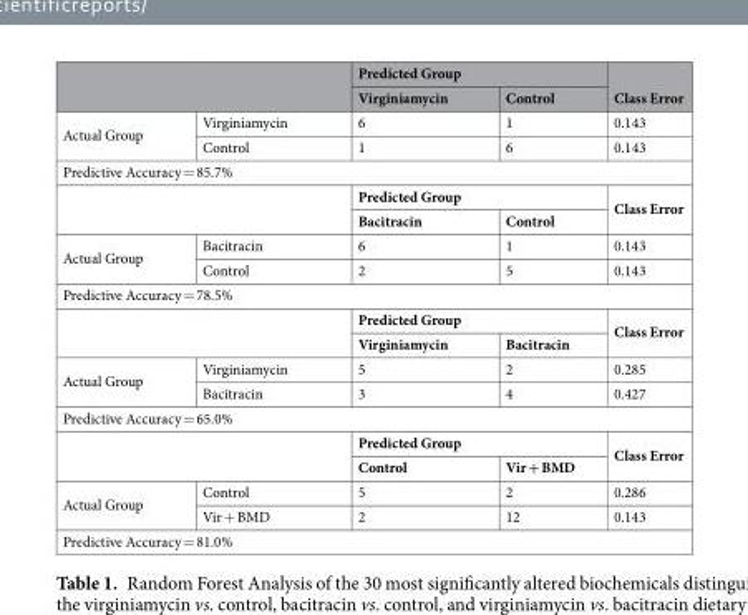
<table><thead><tr><td rowspan="2"></td><td rowspan="2"></td><td colspan="2">Predicted Group</td><td rowspan="2">Class Error</td></tr><tr><td>Virginiamycin</td><td>Control</td></tr></thead><tbody><tr><td rowspan="2">Actual Group</td><td>Virginiamycin</td><td>6</td><td>1</td><td>0.143</td></tr><tr><td>Control</td><td>1</td><td>6</td><td>0.143</td></tr><tr><td colspan="5">Predictive Accuracy = 85.7%</td></tr><tr><td rowspan="2" colspan="2"></td><td colspan="2">Predicted Group</td><td rowspan="2">Class Error</td></tr><tr><td>Bacitracin</td><td>Control</td></tr><tr><td rowspan="2">Actual Group</td><td>Bacitracin</td><td>6</td><td>1</td><td>0.143</td></tr><tr><td>Control</td><td>2</td><td>5</td><td>0.143</td></tr><tr><td colspan="5">Predictive Accuracy = 78.5%</td></tr><tr><td rowspan="2" colspan="2"></td><td colspan="2">Predicted Group</td><td rowspan="2">Class Error</td></tr><tr><td>Virginiamycin</td><td>Bacitracin</td></tr><tr><td rowspan="2">Actual Group</td><td>Virginiamycin</td><td>5</td><td>2</td><td>0.285</td></tr><tr><td>Bacitracin</td><td>3</td><td>4</td><td>0.427</td></tr><tr><td colspan="5">Predictive Accuracy = 65.0%</td></tr><tr><td rowspan="2" colspan="2"></td><td colspan="2">Predicted Group</td><td rowspan="2">Class Error</td></tr><tr><td>Control</td><td>Vir + BMD</td></tr><tr><td rowspan="2">Actual Group</td><td>Control</td><td>5</td><td>2</td><td>0.286</td></tr><tr><td>Vir + BMD</td><td>2</td><td>12</td><td>0.143</td></tr><tr><td colspan="5">Predictive Accuracy = 81.0%</td></tr></tbody></table>